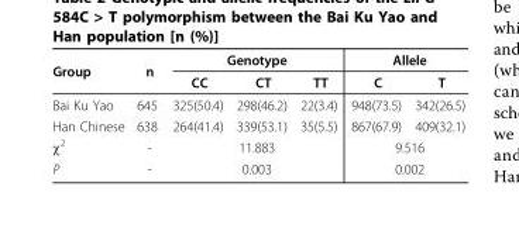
<table><thead><tr><td rowspan="2">Group</td><td rowspan="2">n</td><td colspan="3">Genotype</td><td colspan="2">Allele</td></tr><tr><td>CC</td><td>CT</td><td>TT</td><td>C</td><td>T</td></tr></thead><tbody><tr><td>Bai Ku Yao</td><td>645</td><td>325(50.4)</td><td>298(46.2)</td><td>22(3.4)</td><td>948(73.5)</td><td>342(26.5)</td></tr><tr><td>Han Chinese</td><td>638</td><td>264(41.4)</td><td>339(53.1)</td><td>35(5.5)</td><td>867(67.9)</td><td>409(32.1)</td></tr><tr><td>χ<sup>2</sup></td><td>-</td><td colspan="3">11.883</td><td colspan="2">9.516</td></tr><tr><td>P</td><td>-</td><td colspan="3">0.003</td><td colspan="2">0.002</td></tr></tbody></table>